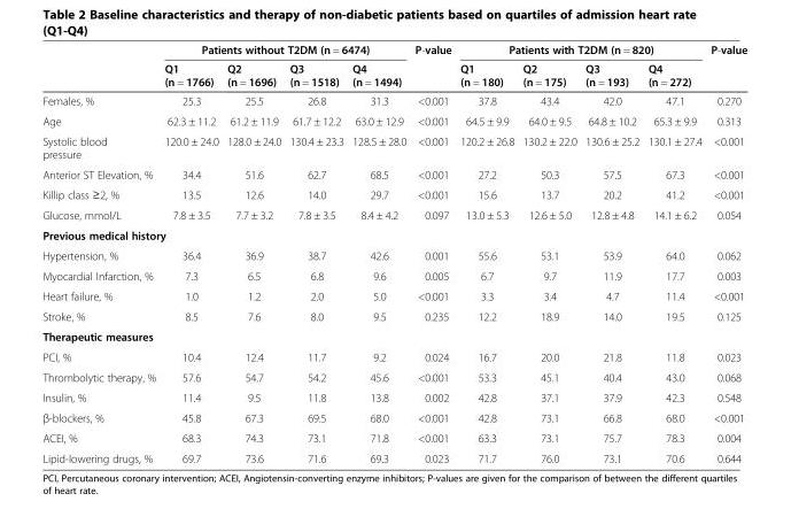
<table><thead><tr><td rowspan="2"></td><td colspan="4">Patients without T2DM (n = 6474)</td><td rowspan="2">P-value</td><td colspan="4">Patients with T2DM (n = 820)</td><td rowspan="2">P-value</td></tr><tr><td>Q1 (n = 1766)</td><td>Q2 (n = 1696)</td><td>Q3 (n = 1518)</td><td>Q4 (n = 1494)</td><td>Q1 (n = 180)</td><td>Q2 (n = 175)</td><td>Q3 (n = 193)</td><td>Q4 (n = 272)</td></tr></thead><tbody><tr><td>Females, %</td><td>25.3</td><td>25.5</td><td>26.8</td><td>31.3</td><td>&lt;0.001</td><td>37.8</td><td>43.4</td><td>42.0</td><td>47.1</td><td>0.270</td></tr><tr><td>Age</td><td>62.3 ± 11.2</td><td>61.2 ± 11.9</td><td>61.7 ± 12.2</td><td>63.0 ± 12.9</td><td>&lt;0.001</td><td>64.5 ± 9.9</td><td>64.0 ± 9.5</td><td>64.8 ± 10.2</td><td>65.3 ± 9.9</td><td>0.313</td></tr><tr><td>Systolic blood pressure</td><td>120.0 ± 24.0</td><td>128.0 ± 24.0</td><td>130.4 ± 23.3</td><td>128.5 ± 28.0</td><td>&lt;0.001</td><td>120.2 ± 26.8</td><td>130.2 ± 22.0</td><td>130.6 ± 25.2</td><td>130.1 ± 27.4</td><td>&lt;0.001</td></tr><tr><td>Anterior ST Elevation, %</td><td>34.4</td><td>51.6</td><td>62.7</td><td>68.5</td><td>&lt;0.001</td><td>27.2</td><td>50.3</td><td>57.5</td><td>67.3</td><td>&lt;0.001</td></tr><tr><td>Killip class ≥2, %</td><td>13.5</td><td>12.6</td><td>14.0</td><td>29.7</td><td>&lt;0.001</td><td>15.6</td><td>13.7</td><td>20.2</td><td>41.2</td><td>&lt;0.001</td></tr><tr><td>Glucose, mmol/L</td><td>7.8 ± 3.5</td><td>7.7 ± 3.2</td><td>7.8 ± 3.5</td><td>8.4 ± 4.2</td><td>0.097</td><td>13.0 ± 5.3</td><td>12.6 ± 5.0</td><td>12.8 ± 4.8</td><td>14.1 ± 6.2</td><td>0.054</td></tr><tr><td colspan="11">Previous medical history</td></tr><tr><td>Hypertension, %</td><td>36.4</td><td>36.9</td><td>38.7</td><td>42.6</td><td>0.001</td><td>55.6</td><td>53.1</td><td>53.9</td><td>64.0</td><td>0.062</td></tr><tr><td>Myocardial Infarction, %</td><td>7.3</td><td>6.5</td><td>6.8</td><td>9.6</td><td>0.005</td><td>6.7</td><td>9.7</td><td>11.9</td><td>17.7</td><td>0.003</td></tr><tr><td>Heart failure, %</td><td>1.0</td><td>1.2</td><td>2.0</td><td>5.0</td><td>&lt;0.001</td><td>3.3</td><td>3.4</td><td>4.7</td><td>11.4</td><td>&lt;0.001</td></tr><tr><td>Stroke, %</td><td>8.5</td><td>7.6</td><td>8.0</td><td>9.5</td><td>0.235</td><td>12.2</td><td>18.9</td><td>14.0</td><td>19.5</td><td>0.125</td></tr><tr><td colspan="11">Therapeutic measures</td></tr><tr><td>PCI, %</td><td>10.4</td><td>12.4</td><td>11.7</td><td>9.2</td><td>0.024</td><td>16.7</td><td>20.0</td><td>21.8</td><td>11.8</td><td>0.023</td></tr><tr><td>Thrombolytic therapy, %</td><td>57.6</td><td>54.7</td><td>54.2</td><td>45.6</td><td>&lt;0.001</td><td>53.3</td><td>45.1</td><td>40.4</td><td>43.0</td><td>0.068</td></tr><tr><td>Insulin, %</td><td>11.4</td><td>9.5</td><td>11.8</td><td>13.8</td><td>0.002</td><td>42.8</td><td>37.1</td><td>37.9</td><td>42.3</td><td>0.548</td></tr><tr><td>β-blockers, %</td><td>45.8</td><td>67.3</td><td>69.5</td><td>68.0</td><td>&lt;0.001</td><td>42.8</td><td>73.1</td><td>66.8</td><td>68.0</td><td>&lt;0.001</td></tr><tr><td>ACEI, %</td><td>68.3</td><td>74.3</td><td>73.1</td><td>71.8</td><td>&lt;0.001</td><td>63.3</td><td>73.1</td><td>75.7</td><td>78.3</td><td>0.004</td></tr><tr><td>Lipid-lowering drugs, %</td><td>69.7</td><td>73.6</td><td>71.6</td><td>69.3</td><td>0.023</td><td>71.7</td><td>76.0</td><td>73.1</td><td>70.6</td><td>0.644</td></tr></tbody></table>